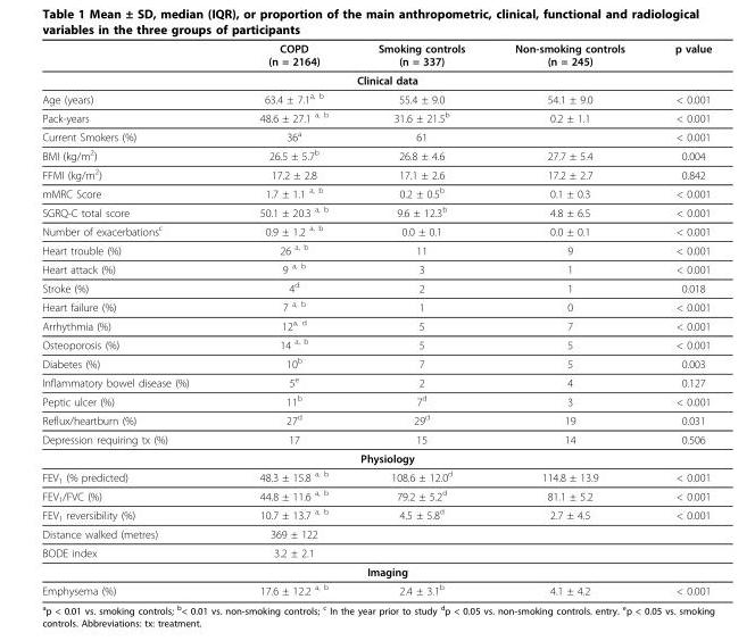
<table><thead><tr><td></td><td>COPD (n = 2164)</td><td>Smoking controls (n = 337)</td><td>Non-smoking controls (n = 245)</td><td>p value</td></tr></thead><tbody><tr><td colspan="5">Clinical data</td></tr><tr><td>Age (years)</td><td>63.4 ± 7.1a, b</td><td>55.4 ± 9.0</td><td>54.1 ± 9.0</td><td>&lt; 0.001</td></tr><tr><td>Pack-years</td><td>48.6 ± 27.1 a, b</td><td>31.6 ± 21.5b</td><td>0.2 ± 1.1</td><td>&lt; 0.001</td></tr><tr><td>Current Smokers (%)</td><td>36a</td><td>61</td><td></td><td>&lt; 0.001</td></tr><tr><td>BMI (kg/m2)</td><td>26.5 ± 5.7b</td><td>26.8 ± 4.6</td><td>27.7 ± 5.4</td><td>0.004</td></tr><tr><td>FFMI (kg/m2)</td><td>17.2 ± 2.8</td><td>17.1 ± 2.6</td><td>17.2 ± 2.7</td><td>0.842</td></tr><tr><td>mMRC Score</td><td>1.7 ± 1.1 a, b</td><td>0.2 ± 0.5b</td><td>0.1 ± 0.3</td><td>&lt; 0.001</td></tr><tr><td>SGRQ-C total score</td><td>50.1 ± 20.3 a, b</td><td>9.6 ± 12.3b</td><td>4.8 ± 6.5</td><td>&lt; 0.001</td></tr><tr><td>Number of exacerbationsc</td><td>0.9 ± 1.2 a, b</td><td>0.0 ± 0.1</td><td>0.0 ± 0.1</td><td>&lt; 0.001</td></tr><tr><td>Heart trouble (%)</td><td>26 a, b</td><td>11</td><td>9</td><td>&lt; 0.001</td></tr><tr><td>Heart attack (%)</td><td>9 a, b</td><td>3</td><td>1</td><td>&lt; 0.001</td></tr><tr><td>Stroke (%)</td><td>4d</td><td>2</td><td>1</td><td>0.018</td></tr><tr><td>Heart failure (%)</td><td>7 a, b</td><td>1</td><td>0</td><td>&lt; 0.001</td></tr><tr><td>Arrhythmia (%)</td><td>12a, d</td><td>5</td><td>7</td><td>&lt; 0.001</td></tr><tr><td>Osteoporosis (%)</td><td>14 a, b</td><td>5</td><td>5</td><td>&lt; 0.001</td></tr><tr><td>Diabetes (%)</td><td>10b</td><td>7</td><td>5</td><td>0.003</td></tr><tr><td>Inflammatory bowel disease (%)</td><td>5e</td><td>2</td><td>4</td><td>0.127</td></tr><tr><td>Peptic ulcer (%)</td><td>11b</td><td>7d</td><td>3</td><td>&lt; 0.001</td></tr><tr><td>Reflux/heartburn (%)</td><td>27d</td><td>29d</td><td>19</td><td>0.031</td></tr><tr><td>Depression requiring tx (%)</td><td>17</td><td>15</td><td>14</td><td>0.506</td></tr><tr><td colspan="5">Physiology</td></tr><tr><td>FEV1 (% predicted)</td><td>48.3 ± 15.8 a, b</td><td>108.6 ± 12.0d</td><td>114.8 ± 13.9</td><td>&lt; 0.001</td></tr><tr><td>FEV1/FVC (%)</td><td>44.8 ± 11.6 a, b</td><td>79.2 ± 5.2d</td><td>81.1 ± 5.2</td><td>&lt; 0.001</td></tr><tr><td>FEV1 reversibility (%)</td><td>10.7 ± 13.7 a, b</td><td>4.5 ± 5.8d</td><td>2.7 ± 4.5</td><td>&lt; 0.001</td></tr><tr><td>Distance walked (metres)</td><td>369 ± 122</td><td></td><td></td><td></td></tr><tr><td>BODE index</td><td>3.2 ± 2.1</td><td></td><td></td><td></td></tr><tr><td colspan="5">Imaging</td></tr><tr><td>Emphysema (%)</td><td>17.6 ± 12.2 a, b</td><td>2.4 ± 3.1b</td><td>4.1 ± 4.2</td><td>&lt; 0.001</td></tr></tbody></table>